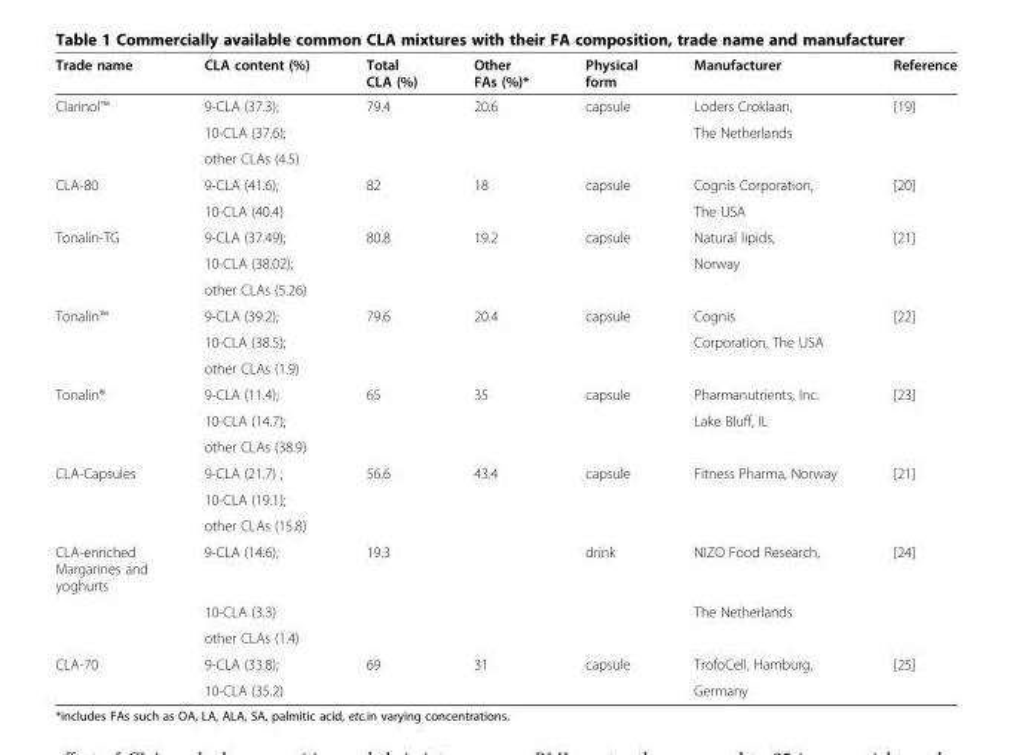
<table><thead><tr><td>Trade name</td><td>CLA content (%)</td><td>Total CLA (%)</td><td>Other FAs (%)*</td><td>Physical form</td><td>Manufacturer</td><td>Reference</td></tr></thead><tbody><tr><td rowspan="3">Clarinol™</td><td>9-CLA (37.3);</td><td>79.4</td><td>20.6</td><td>capsule</td><td>Loders Croklaan,</td><td>[19]</td></tr><tr><td>10-CLA (37.6);</td><td></td><td></td><td></td><td>The Netherlands</td><td></td></tr><tr><td>other CLAs (4.5)</td><td></td><td></td><td></td><td></td><td></td></tr><tr><td rowspan="2">CLA-80</td><td>9-CLA (41.6);</td><td>82</td><td>18</td><td>capsule</td><td>Cognis Corporation,</td><td>[20]</td></tr><tr><td>10-CLA (40.4)</td><td></td><td></td><td></td><td>The USA</td><td></td></tr><tr><td rowspan="3">Tonalin-TG</td><td>9-CLA (37.49);</td><td>80.8</td><td>19.2</td><td>capsule</td><td>Natural lipids,</td><td>[21]</td></tr><tr><td>10-CLA (38.02);</td><td></td><td></td><td></td><td>Norway</td><td></td></tr><tr><td>other CLAs (5.26)</td><td></td><td></td><td></td><td></td><td></td></tr><tr><td rowspan="3">Tonalin™</td><td>9-CLA (39.2);</td><td>79.6</td><td>20.4</td><td>capsule</td><td>Cognis</td><td>[22]</td></tr><tr><td>10-CLA (38.5);</td><td></td><td></td><td></td><td>Corporation, The USA</td><td></td></tr><tr><td>other CLAs (1.9)</td><td></td><td></td><td></td><td></td><td></td></tr><tr><td rowspan="3">Tonalin®</td><td>9-CLA (11.4);</td><td>65</td><td>35</td><td>capsule</td><td>Pharmanutrients, Inc.</td><td>[23]</td></tr><tr><td>10-CLA (14.7);</td><td></td><td></td><td></td><td>Lake Bluff, IL</td><td></td></tr><tr><td>other CLAs (38.9)</td><td></td><td></td><td></td><td></td><td></td></tr><tr><td rowspan="3">CLA-Capsules</td><td>9-CLA (21.7) ;</td><td>56.6</td><td>43.4</td><td>capsule</td><td>Fitness Pharma, Norway</td><td>[21]</td></tr><tr><td>10-CLA (19.1);</td><td></td><td></td><td></td><td></td><td></td></tr><tr><td>other CLAs (15.8)</td><td></td><td></td><td></td><td></td><td></td></tr><tr><td rowspan="3">CLA-enriched Margarines and yoghurts</td><td>9-CLA (14.6);</td><td>19.3</td><td></td><td>drink</td><td>NIZO Food Research,</td><td>[24]</td></tr><tr><td>10-CLA (3.3)</td><td></td><td></td><td></td><td>The Netherlands</td><td></td></tr><tr><td>other CLAs (1.4)</td><td></td><td></td><td></td><td></td><td></td></tr><tr><td rowspan="2">CLA-70</td><td>9-CLA (33.8);</td><td>69</td><td>31</td><td>capsule</td><td>TrofoCell, Hamburg,</td><td>[25]</td></tr><tr><td>10-CLA (35.2)</td><td></td><td></td><td></td><td>Germany</td><td></td></tr></tbody></table>